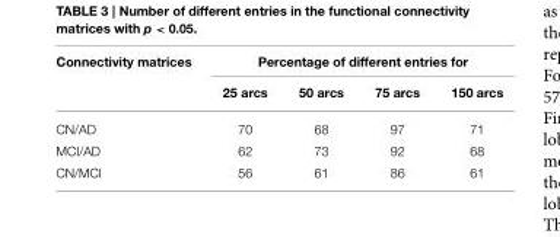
<table><thead><tr><td rowspan="2">Connectivity matrices</td><td colspan="4">Percentage of different entries for</td></tr><tr><td>25 arcs</td><td>50 arcs</td><td>75 arcs</td><td>150 arcs</td></tr></thead><tbody><tr><td>CN/AD</td><td>70</td><td>68</td><td>97</td><td>71</td></tr><tr><td>MCI/AD</td><td>62</td><td>73</td><td>92</td><td>68</td></tr><tr><td>CN/MCI</td><td>56</td><td>61</td><td>86</td><td>61</td></tr></tbody></table>